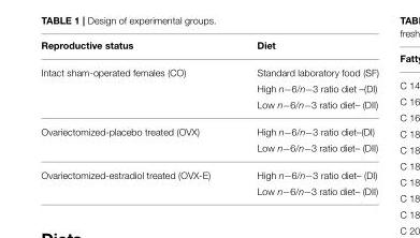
<table><thead><tr><td>Reproductive status</td><td>Diet</td></tr></thead><tbody><tr><td rowspan="3">Intact sham-operated females (CO)</td><td>Standard laboratory food (SF)</td></tr><tr><td>High n−6/n−3 ratio diet –(DI)</td></tr><tr><td>Low n−6/n−3 ratio diet– (DII)</td></tr><tr><td rowspan="2">Ovariectomized-placebo treated (OVX)</td><td>High n−6/n−3 ratio diet–(DI)</td></tr><tr><td>Low n−6/n−3 ratio diet– (DII)</td></tr><tr><td rowspan="2">Ovariectomized-estradiol treated (OVX-E)</td><td>High n−6/n−3 ratio diet– (DI)</td></tr><tr><td>Low n−6/n−3 ratio diet– (DII)</td></tr></tbody></table>